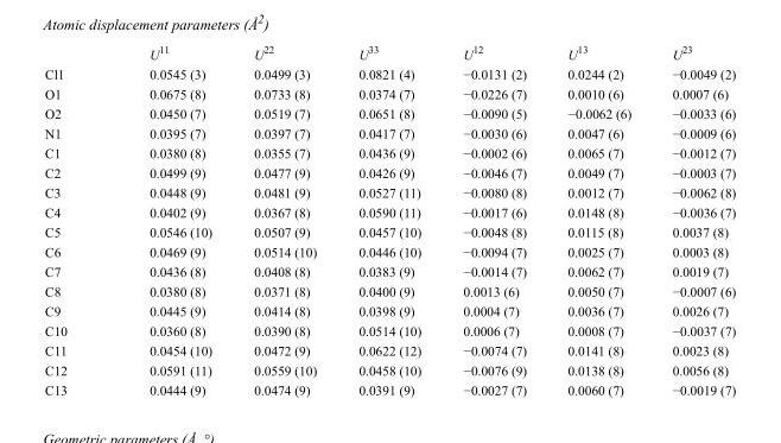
<table><thead><tr><td></td><td>U<sup>11</sup></td><td>U<sup>22</sup></td><td>U<sup>33</sup></td><td>U<sup>12</sup></td><td>U<sup>13</sup></td><td>U<sup>23</sup></td></tr></thead><tbody><tr><td>Cl1</td><td>0.0545 (3)</td><td>0.0499 (3)</td><td>0.0821 (4)</td><td>−0.0131 (2)</td><td>0.0244 (2)</td><td>−0.0049 (2)</td></tr><tr><td>O1</td><td>0.0675 (8)</td><td>0.0733 (8)</td><td>0.0374 (7)</td><td>−0.0226 (7)</td><td>0.0010 (6)</td><td>0.0007 (6)</td></tr><tr><td>O2</td><td>0.0450 (7)</td><td>0.0519 (7)</td><td>0.0651 (8)</td><td>−0.0090 (5)</td><td>−0.0062 (6)</td><td>−0.0033 (6)</td></tr><tr><td>N1</td><td>0.0395 (7)</td><td>0.0397 (7)</td><td>0.0417 (7)</td><td>−0.0030 (6)</td><td>0.0047 (6)</td><td>−0.0009 (6)</td></tr><tr><td>C1</td><td>0.0380 (8)</td><td>0.0355 (7)</td><td>0.0436 (9)</td><td>−0.0002 (6)</td><td>0.0065 (7)</td><td>−0.0012 (7)</td></tr><tr><td>C2</td><td>0.0499 (9)</td><td>0.0477 (9)</td><td>0.0426 (9)</td><td>−0.0046 (7)</td><td>0.0049 (7)</td><td>−0.0003 (7)</td></tr><tr><td>C3</td><td>0.0448 (9)</td><td>0.0481 (9)</td><td>0.0527 (11)</td><td>−0.0080 (8)</td><td>0.0012 (7)</td><td>−0.0062 (8)</td></tr><tr><td>C4</td><td>0.0402 (9)</td><td>0.0367 (8)</td><td>0.0590 (11)</td><td>−0.0017 (6)</td><td>0.0148 (8)</td><td>−0.0036 (7)</td></tr><tr><td>C5</td><td>0.0546 (10)</td><td>0.0507 (9)</td><td>0.0457 (10)</td><td>−0.0048 (8)</td><td>0.0115 (8)</td><td>0.0037 (8)</td></tr><tr><td>C6</td><td>0.0469 (9)</td><td>0.0514 (10)</td><td>0.0446 (10)</td><td>−0.0094 (7)</td><td>0.0025 (7)</td><td>0.0003 (8)</td></tr><tr><td>C7</td><td>0.0436 (8)</td><td>0.0408 (8)</td><td>0.0383 (9)</td><td>−0.0014 (7)</td><td>0.0062 (7)</td><td>0.0019 (7)</td></tr><tr><td>C8</td><td>0.0380 (8)</td><td>0.0371 (8)</td><td>0.0400 (9)</td><td>0.0013 (6)</td><td>0.0050 (7)</td><td>−0.0007 (6)</td></tr><tr><td>C9</td><td>0.0445 (9)</td><td>0.0414 (8)</td><td>0.0398 (9)</td><td>0.0004 (7)</td><td>0.0036 (7)</td><td>0.0026 (7)</td></tr><tr><td>C10</td><td>0.0360 (8)</td><td>0.0390 (8)</td><td>0.0514 (10)</td><td>0.0006 (7)</td><td>0.0008 (7)</td><td>−0.0037 (7)</td></tr><tr><td>C11</td><td>0.0454 (10)</td><td>0.0472 (9)</td><td>0.0622 (12)</td><td>−0.0074 (7)</td><td>0.0141 (8)</td><td>0.0023 (8)</td></tr><tr><td>C12</td><td>0.0591 (11)</td><td>0.0559 (10)</td><td>0.0458 (10)</td><td>−0.0076 (9)</td><td>0.0138 (8)</td><td>0.0056 (8)</td></tr><tr><td>C13</td><td>0.0444 (9)</td><td>0.0474 (9)</td><td>0.0391 (9)</td><td>−0.0027 (7)</td><td>0.0060 (7)</td><td>−0.0019 (7)</td></tr></tbody></table>